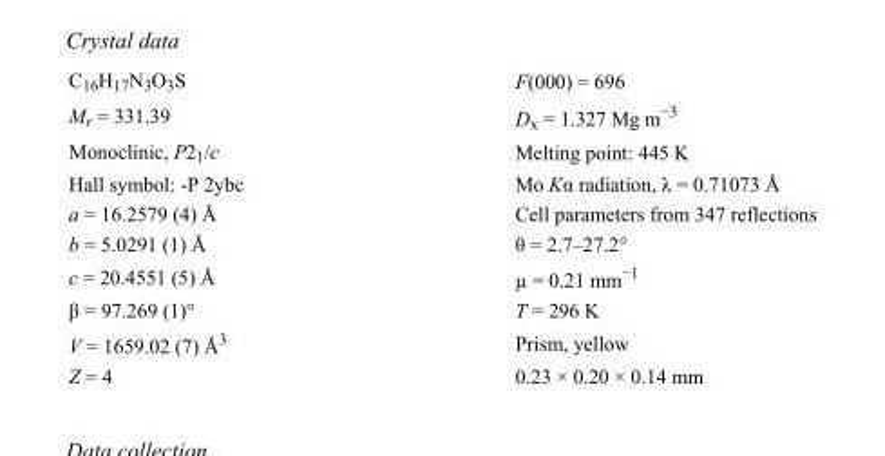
<table><tbody><tr><td>C<sub>16</sub>H<sub>17</sub>N<sub>3</sub>O<sub>3</sub>S</td><td>F(000) = 696</td></tr><tr><td>M<sub>r</sub> = 331.39</td><td>D<sub>x</sub> = 1.327 Mg m<sup>−3</sup></td></tr><tr><td>Monoclinic, P2<sub>1</sub>/c</td><td>Melting point: 445 K</td></tr><tr><td>Hall symbol: -P 2ybc</td><td>Mo Kα radiation, λ = 0.71073 Å</td></tr><tr><td>a = 16.2579 (4) Å</td><td>Cell parameters from 347 reflections</td></tr><tr><td>b = 5.0291 (1) Å</td><td>θ = 2.7–27.2°</td></tr><tr><td>c = 20.4551 (5) Å</td><td>µ = 0.21 mm<sup>−1</sup></td></tr><tr><td>β = 97.269 (1)°</td><td>T = 296 K</td></tr><tr><td>V = 1659.02 (7) Å<sup>3</sup></td><td>Prism, yellow</td></tr><tr><td>Z = 4</td><td>0.23 × 0.20 × 0.14 mm</td></tr></tbody></table>